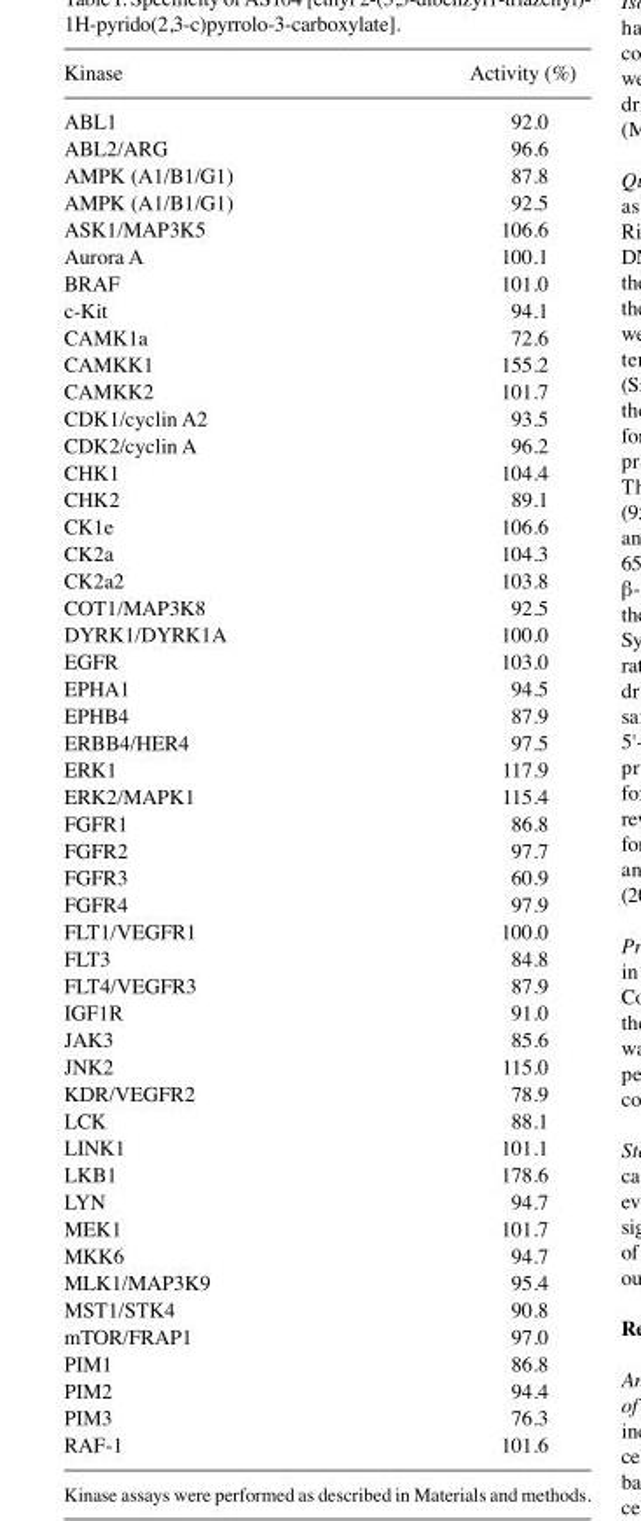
<table><thead><tr><td>Kinase</td><td>Activity (%)</td></tr></thead><tbody><tr><td>ABL1</td><td>92.0</td></tr><tr><td>ABL2/ARG</td><td>96.6</td></tr><tr><td>AMPK (A1/B1/G1)</td><td>87.8</td></tr><tr><td>AMPK (A1/B1/G1)</td><td>92.5</td></tr><tr><td>ASK1/MAP3K5</td><td>106.6</td></tr><tr><td>Aurora A</td><td>100.1</td></tr><tr><td>BRAF</td><td>101.0</td></tr><tr><td>c-Kit</td><td>94.1</td></tr><tr><td>CAMK1a</td><td>72.6</td></tr><tr><td>CAMKK1</td><td>155.2</td></tr><tr><td>CAMKK2</td><td>101.7</td></tr><tr><td>CDK1/cyclin A2</td><td>93.5</td></tr><tr><td>CDK2/cyclin A</td><td>96.2</td></tr><tr><td>CHK1</td><td>104.4</td></tr><tr><td>CHK2</td><td>89.1</td></tr><tr><td>CK1e</td><td>106.6</td></tr><tr><td>CK2a</td><td>104.3</td></tr><tr><td>CK2a2</td><td>103.8</td></tr><tr><td>COT1/MAP3K8</td><td>92.5</td></tr><tr><td>DYRK1/DYRK1A</td><td>100.0</td></tr><tr><td>EGFR</td><td>103.0</td></tr><tr><td>EPHA1</td><td>94.5</td></tr><tr><td>EPHB4</td><td>87.9</td></tr><tr><td>ERBB4/HER4</td><td>97.5</td></tr><tr><td>ERK1</td><td>117.9</td></tr><tr><td>ERK2/MAPK1</td><td>115.4</td></tr><tr><td>FGFR1</td><td>86.8</td></tr><tr><td>FGFR2</td><td>97.7</td></tr><tr><td>FGFR3</td><td>60.9</td></tr><tr><td>FGFR4</td><td>97.9</td></tr><tr><td>FLT1/VEGFR1</td><td>100.0</td></tr><tr><td>FLT3</td><td>84.8</td></tr><tr><td>FLT4/VEGFR3</td><td>87.9</td></tr><tr><td>IGF1R</td><td>91.0</td></tr><tr><td>JAK3</td><td>85.6</td></tr><tr><td>JNK2</td><td>115.0</td></tr><tr><td>KDR/VEGFR2</td><td>78.9</td></tr><tr><td>LCK</td><td>88.1</td></tr><tr><td>LINK1</td><td>101.1</td></tr><tr><td>LKB1</td><td>178.6</td></tr><tr><td>LYN</td><td>94.7</td></tr><tr><td>MEK1</td><td>101.7</td></tr><tr><td>MKK6</td><td>94.7</td></tr><tr><td>MLK1/MAP3K9</td><td>95.4</td></tr><tr><td>MST1/STK4</td><td>90.8</td></tr><tr><td>mTOR/FRAP1</td><td>97.0</td></tr><tr><td>PIM1</td><td>86.8</td></tr><tr><td>PIM2</td><td>94.4</td></tr><tr><td>PIM3</td><td>76.3</td></tr><tr><td>RAF-1</td><td>101.6</td></tr></tbody></table>